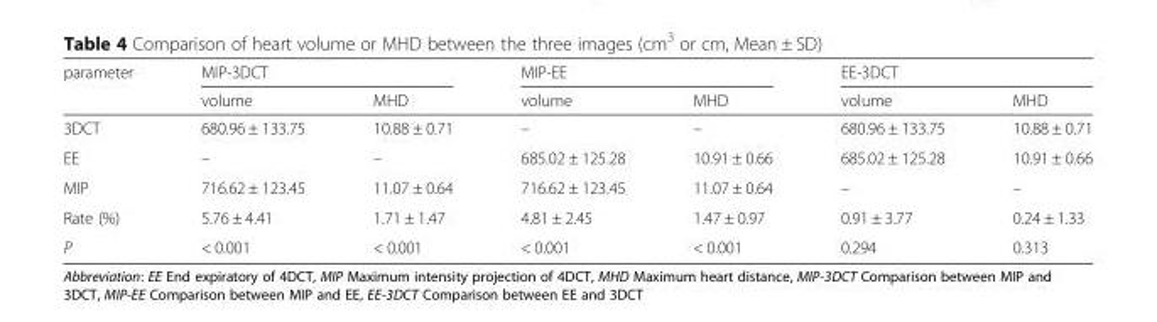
<table><thead><tr><td rowspan="2">parameter</td><td colspan="2">MIP-3DCT</td><td colspan="2">MIP-EE</td><td colspan="2">EE-3DCT</td></tr><tr><td>volume</td><td>MHD</td><td>volume</td><td>MHD</td><td>volume</td><td>MHD</td></tr></thead><tbody><tr><td>3DCT</td><td>680.96 ± 133.75</td><td>10.88 ± 0.71</td><td>–</td><td>–</td><td>680.96 ± 133.75</td><td>10.88 ± 0.71</td></tr><tr><td>EE</td><td>–</td><td>–</td><td>685.02 ± 125.28</td><td>10.91 ± 0.66</td><td>685.02 ± 125.28</td><td>10.91 ± 0.66</td></tr><tr><td>MIP</td><td>716.62 ± 123.45</td><td>11.07 ± 0.64</td><td>716.62 ± 123.45</td><td>11.07 ± 0.64</td><td>–</td><td>–</td></tr><tr><td>Rate (%)</td><td>5.76 ± 4.41</td><td>1.71 ± 1.47</td><td>4.81 ± 2.45</td><td>1.47 ± 0.97</td><td>0.91 ± 3.77</td><td>0.24 ± 1.33</td></tr><tr><td>P</td><td>&lt; 0.001</td><td>&lt; 0.001</td><td>&lt; 0.001</td><td>&lt; 0.001</td><td>0.294</td><td>0.313</td></tr></tbody></table>